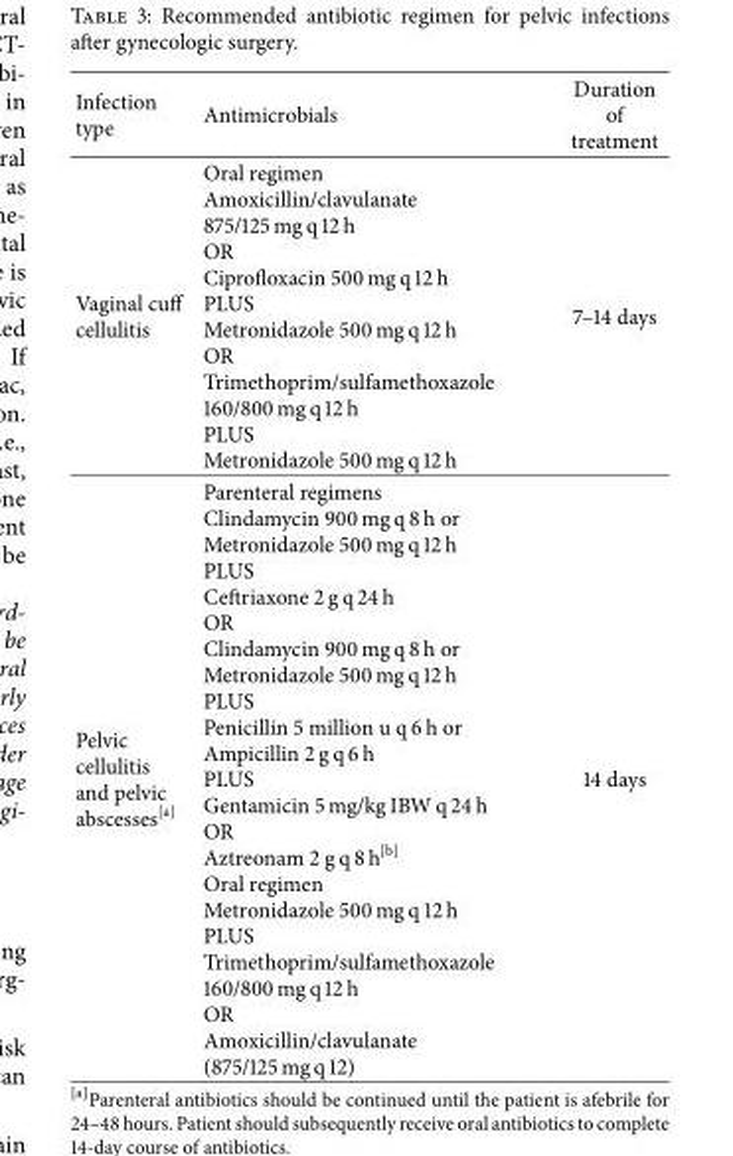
<table><thead><tr><td>Infection type</td><td>Antimicrobials</td><td>Duration of treatment</td></tr></thead><tbody><tr><td>Vaginal cuff cellulitis</td><td>Oral regimen Amoxicillin/clavulanate 875/125 mg q 12 h OR Ciprofloxacin 500 mg q 12 h PLUS Metronidazole 500 mg q 12 h OR Trimethoprim/sulfamethoxazole 160/800 mg q 12 h PLUS Metronidazole 500 mg q 12 h</td><td>7–14 days</td></tr><tr><td>Pelvic cellulitis and pelvic abscesses<sup>[a]</sup></td><td>Parenteral regimens Clindamycin 900 mg q 8 h or Metronidazole 500 mg q 12 h PLUS Ceftriaxone 2 g q 24 h OR Clindamycin 900 mg q 8 h or Metronidazole 500 mg q 12 h PLUS Penicillin 5 million u q 6 h or Ampicillin 2 g q 6 h PLUS Gentamicin 5 mg/kg IBW q 24 h OR Aztreonam 2 g q 8 h<sup>[b]</sup> Oral regimen Metronidazole 500 mg q 12 h PLUS Trimethoprim/sulfamethoxazole 160/800 mg q 12 h OR Amoxicillin/clavulanate (875/125 mg q 12)</td><td>14 days</td></tr></tbody></table>